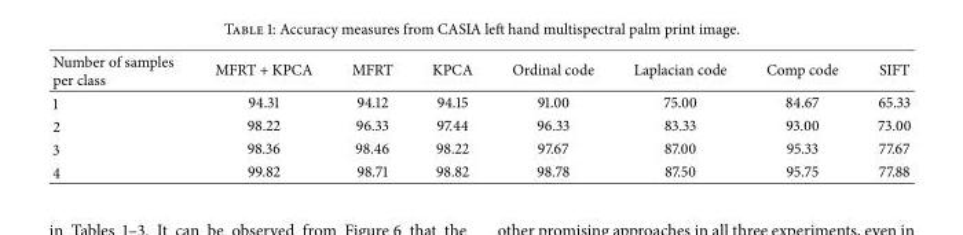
<table><thead><tr><td>Number of samples per class</td><td>MFRT + KPCA</td><td>MFRT</td><td>KPCA</td><td>Ordinal code</td><td>Laplacian code</td><td>Comp code</td><td>SIFT</td></tr></thead><tbody><tr><td>1</td><td>94.31</td><td>94.12</td><td>94.15</td><td>91.00</td><td>75.00</td><td>84.67</td><td>65.33</td></tr><tr><td>2</td><td>98.22</td><td>96.33</td><td>97.44</td><td>96.33</td><td>83.33</td><td>93.00</td><td>73.00</td></tr><tr><td>3</td><td>98.36</td><td>98.46</td><td>98.22</td><td>97.67</td><td>87.00</td><td>95.33</td><td>77.67</td></tr><tr><td>4</td><td>99.82</td><td>98.71</td><td>98.82</td><td>98.78</td><td>87.50</td><td>95.75</td><td>77.88</td></tr></tbody></table>